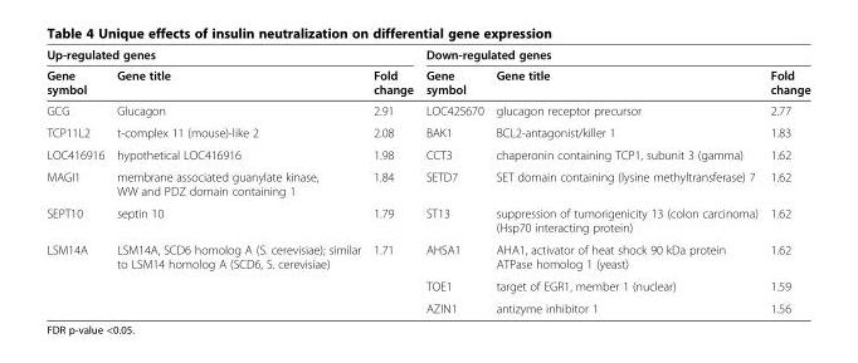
<table><thead><tr><td colspan="2">Up-regulated genes</td><td rowspan="2">Fold change</td><td colspan="2">Down-regulated genes</td><td rowspan="2">Fold change</td></tr><tr><td>Gene symbol</td><td>Gene title</td><td>Gene symbol</td><td>Gene title</td></tr></thead><tbody><tr><td>GCG</td><td>Glucagon</td><td>2.91</td><td>LOC425670</td><td>glucagon receptor precursor</td><td>2.77</td></tr><tr><td>TCP11L2</td><td>t-complex 11 (mouse)-like 2</td><td>2.08</td><td>BAK1</td><td>BCL2-antagonist/killer 1</td><td>1.83</td></tr><tr><td>LOC416916</td><td>hypothetical LOC416916</td><td>1.98</td><td>CCT3</td><td>chaperonin containing TCP1, subunit 3 (gamma)</td><td>1.62</td></tr><tr><td>MAGI1</td><td>membrane associated guanylate kinase, WW and PDZ domain containing 1</td><td>1.84</td><td>SETD7</td><td>SET domain containing (lysine methyltransferase) 7</td><td>1.62</td></tr><tr><td>SEPT10</td><td>septin 10</td><td>1.79</td><td>ST13</td><td>suppression of tumorigenicity 13 (colon carcinoma) (Hsp70 interacting protein)</td><td>1.62</td></tr><tr><td rowspan="3">LSM14A</td><td>LSM14A, SCD6 homolog A (S. cerevisiae); similar to LSM14 homolog A (SCD6, S. cerevisiae)</td><td>1.71</td><td>AHSA1</td><td>AHA1, activator of heat shock 90 kDa protein ATPase homolog 1 (yeast)</td><td>1.62</td></tr><tr><td></td><td></td><td>TOE1</td><td>target of EGR1, member 1 (nuclear)</td><td>1.59</td></tr><tr><td></td><td></td><td>AZIN1</td><td>antizyme inhibitor 1</td><td>1.56</td></tr></tbody></table>